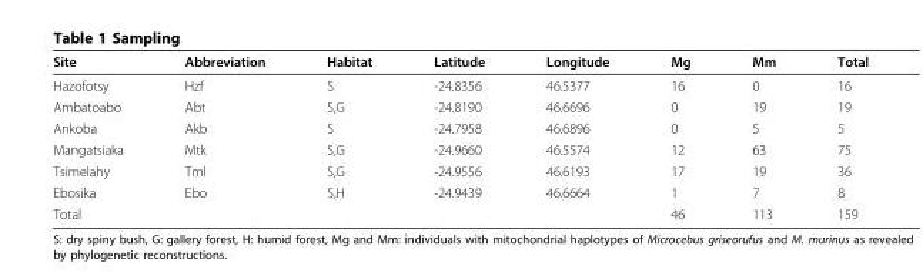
<table><thead><tr><td>Site</td><td>Abbreviation</td><td>Habitat</td><td>Latitude</td><td>Longitude</td><td>Mg</td><td>Mm</td><td>Total</td></tr></thead><tbody><tr><td>Hazofotsy</td><td>Hzf</td><td>S</td><td>-24.8356</td><td>46.5377</td><td>16</td><td>0</td><td>16</td></tr><tr><td>Ambatoabo</td><td>Abt</td><td>S,G</td><td>-24.8190</td><td>46.6696</td><td>0</td><td>19</td><td>19</td></tr><tr><td>Ankoba</td><td>Akb</td><td>S</td><td>-24.7958</td><td>46.6896</td><td>0</td><td>5</td><td>5</td></tr><tr><td>Mangatsiaka</td><td>Mtk</td><td>S,G</td><td>-24.9660</td><td>46.5574</td><td>12</td><td>63</td><td>75</td></tr><tr><td>Tsimelahy</td><td>Tml</td><td>S,G</td><td>-24.9556</td><td>46.6193</td><td>17</td><td>19</td><td>36</td></tr><tr><td>Ebosika</td><td>Ebo</td><td>S,H</td><td>-24.9439</td><td>46.6664</td><td>1</td><td>7</td><td>8</td></tr><tr><td>Total</td><td></td><td></td><td></td><td></td><td>46</td><td>113</td><td>159</td></tr></tbody></table>